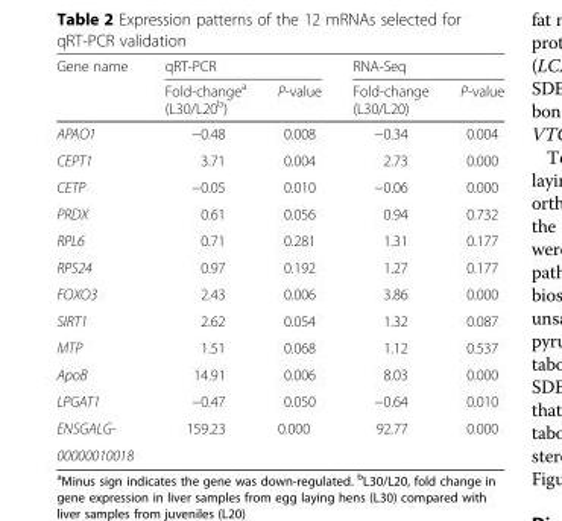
<table><thead><tr><td rowspan="2">Gene name</td><td colspan="2">qRT-PCR</td><td colspan="2">RNA-Seq</td></tr><tr><td>Fold-change<sup>a</sup> (L30/L20<sup>b</sup>)</td><td>P-value</td><td>Fold-change (L30/L20)</td><td>P-value</td></tr></thead><tbody><tr><td>APAO1</td><td>−0.48</td><td>0.008</td><td>−0.34</td><td>0.004</td></tr><tr><td>CEPT1</td><td>3.71</td><td>0.004</td><td>2.73</td><td>0.000</td></tr><tr><td>CETP</td><td>−0.05</td><td>0.010</td><td>−0.06</td><td>0.000</td></tr><tr><td>PRDX</td><td>0.61</td><td>0.056</td><td>0.94</td><td>0.732</td></tr><tr><td>RPL6</td><td>0.71</td><td>0.281</td><td>1.31</td><td>0.177</td></tr><tr><td>RPS24</td><td>0.97</td><td>0.192</td><td>1.27</td><td>0.177</td></tr><tr><td>FOXO3</td><td>2.43</td><td>0.006</td><td>3.86</td><td>0.000</td></tr><tr><td>SIRT1</td><td>2.62</td><td>0.054</td><td>1.32</td><td>0.087</td></tr><tr><td>MTP</td><td>1.51</td><td>0.068</td><td>1.12</td><td>0.537</td></tr><tr><td>ApoB</td><td>14.91</td><td>0.006</td><td>8.03</td><td>0.000</td></tr><tr><td>LPGAT1</td><td>−0.47</td><td>0.050</td><td>−0.64</td><td>0.010</td></tr><tr><td>ENSGALG-</td><td rowspan="2">159.23</td><td rowspan="2">0.000</td><td rowspan="2">92.77</td><td rowspan="2">0.000</td></tr><tr><td>00000010018</td></tr></tbody></table>